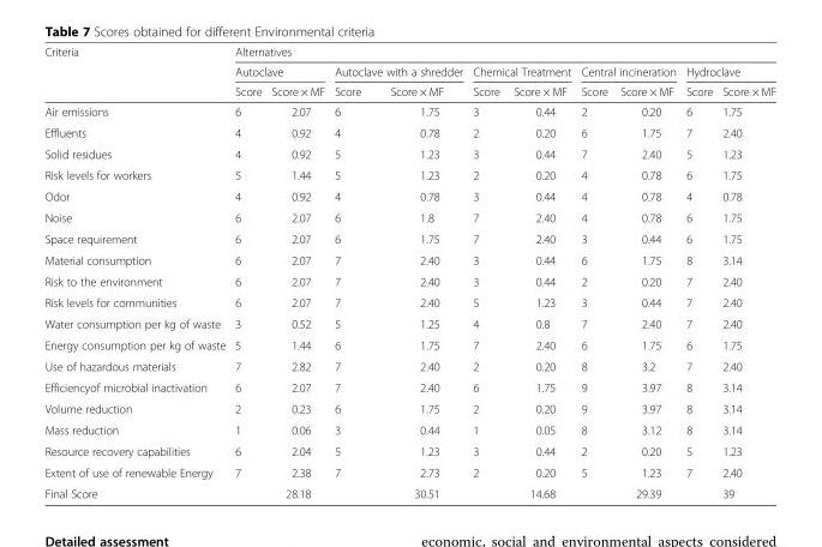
<table><thead><tr><td rowspan="3">Criteria</td><td colspan="10">Alternatives</td></tr><tr><td colspan="2">Autoclave</td><td colspan="2">Autoclave with a shredder</td><td colspan="2">Chemical Treatment</td><td colspan="2">Central incineration</td><td colspan="2">Hydroclave</td></tr><tr><td>Score</td><td>Score × MF</td><td>Score</td><td>Score × MF</td><td>Score</td><td>Score × MF</td><td>Score</td><td>Score × MF</td><td>Score</td><td>Score × MF</td></tr></thead><tbody><tr><td>Air emissions</td><td>6</td><td>2.07</td><td>6</td><td>1.75</td><td>3</td><td>0.44</td><td>2</td><td>0.20</td><td>6</td><td>1.75</td></tr><tr><td>Effluents</td><td>4</td><td>0.92</td><td>4</td><td>0.78</td><td>2</td><td>0.20</td><td>6</td><td>1.75</td><td>7</td><td>2.40</td></tr><tr><td>Solid residues</td><td>4</td><td>0.92</td><td>5</td><td>1.23</td><td>3</td><td>0.44</td><td>7</td><td>2.40</td><td>5</td><td>1.23</td></tr><tr><td>Risk levels for workers</td><td>5</td><td>1.44</td><td>5</td><td>1.23</td><td>2</td><td>0.20</td><td>4</td><td>0.78</td><td>6</td><td>1.75</td></tr><tr><td>Odor</td><td>4</td><td>0.92</td><td>4</td><td>0.78</td><td>3</td><td>0.44</td><td>4</td><td>0.78</td><td>4</td><td>0.78</td></tr><tr><td>Noise</td><td>6</td><td>2.07</td><td>6</td><td>1.8</td><td>7</td><td>2.40</td><td>4</td><td>0.78</td><td>6</td><td>1.75</td></tr><tr><td>Space requirement</td><td>6</td><td>2.07</td><td>6</td><td>1.75</td><td>7</td><td>2.40</td><td>3</td><td>0.44</td><td>6</td><td>1.75</td></tr><tr><td>Material consumption</td><td>6</td><td>2.07</td><td>7</td><td>2.40</td><td>3</td><td>0.44</td><td>6</td><td>1.75</td><td>8</td><td>3.14</td></tr><tr><td>Risk to the environment</td><td>6</td><td>2.07</td><td>7</td><td>2.40</td><td>3</td><td>0.44</td><td>2</td><td>0.20</td><td>7</td><td>2.40</td></tr><tr><td>Risk levels for communities</td><td>6</td><td>2.07</td><td>7</td><td>2.40</td><td>5</td><td>1.23</td><td>3</td><td>0.44</td><td>7</td><td>2.40</td></tr><tr><td>Water consumption per kg of waste</td><td>3</td><td>0.52</td><td>5</td><td>1.25</td><td>4</td><td>0.8</td><td>7</td><td>2.40</td><td>7</td><td>2.40</td></tr><tr><td>Energy consumption per kg of waste</td><td>5</td><td>1.44</td><td>6</td><td>1.75</td><td>7</td><td>2.40</td><td>6</td><td>1.75</td><td>6</td><td>1.75</td></tr><tr><td>Use of hazardous materials</td><td>7</td><td>2.82</td><td>7</td><td>2.40</td><td>2</td><td>0.20</td><td>8</td><td>3.2</td><td>7</td><td>2.40</td></tr><tr><td>Efficiencyof microbial inactivation</td><td>6</td><td>2.07</td><td>7</td><td>2.40</td><td>6</td><td>1.75</td><td>9</td><td>3.97</td><td>8</td><td>3.14</td></tr><tr><td>Volume reduction</td><td>2</td><td>0.23</td><td>6</td><td>1.75</td><td>2</td><td>0.20</td><td>9</td><td>3.97</td><td>8</td><td>3.14</td></tr><tr><td>Mass reduction</td><td>1</td><td>0.06</td><td>3</td><td>0.44</td><td>1</td><td>0.05</td><td>8</td><td>3.12</td><td>8</td><td>3.14</td></tr><tr><td>Resource recovery capabilities</td><td>6</td><td>2.04</td><td>5</td><td>1.23</td><td>3</td><td>0.44</td><td>2</td><td>0.20</td><td>5</td><td>1.23</td></tr><tr><td>Extent of use of renewable Energy</td><td>7</td><td>2.38</td><td>7</td><td>2.73</td><td>2</td><td>0.20</td><td>5</td><td>1.23</td><td>7</td><td>2.40</td></tr><tr><td>Final Score</td><td></td><td>28.18</td><td></td><td>30.51</td><td></td><td>14.68</td><td></td><td>29.39</td><td></td><td>39</td></tr></tbody></table>